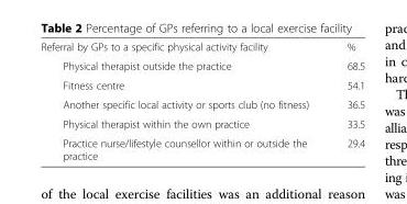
<table><tbody><tr><td>Referral by GPs to a specific physical activity facility</td><td>%</td></tr><tr><td>Physical therapist outside the practice</td><td>68.5</td></tr><tr><td>Fitness centre</td><td>54.1</td></tr><tr><td>Another specific local activity or sports club (no fitness)</td><td>36.5</td></tr><tr><td>Physical therapist within the own practice</td><td>33.5</td></tr><tr><td>Practice nurse/lifestyle counsellor within or outside the practice</td><td>29.4</td></tr></tbody></table>